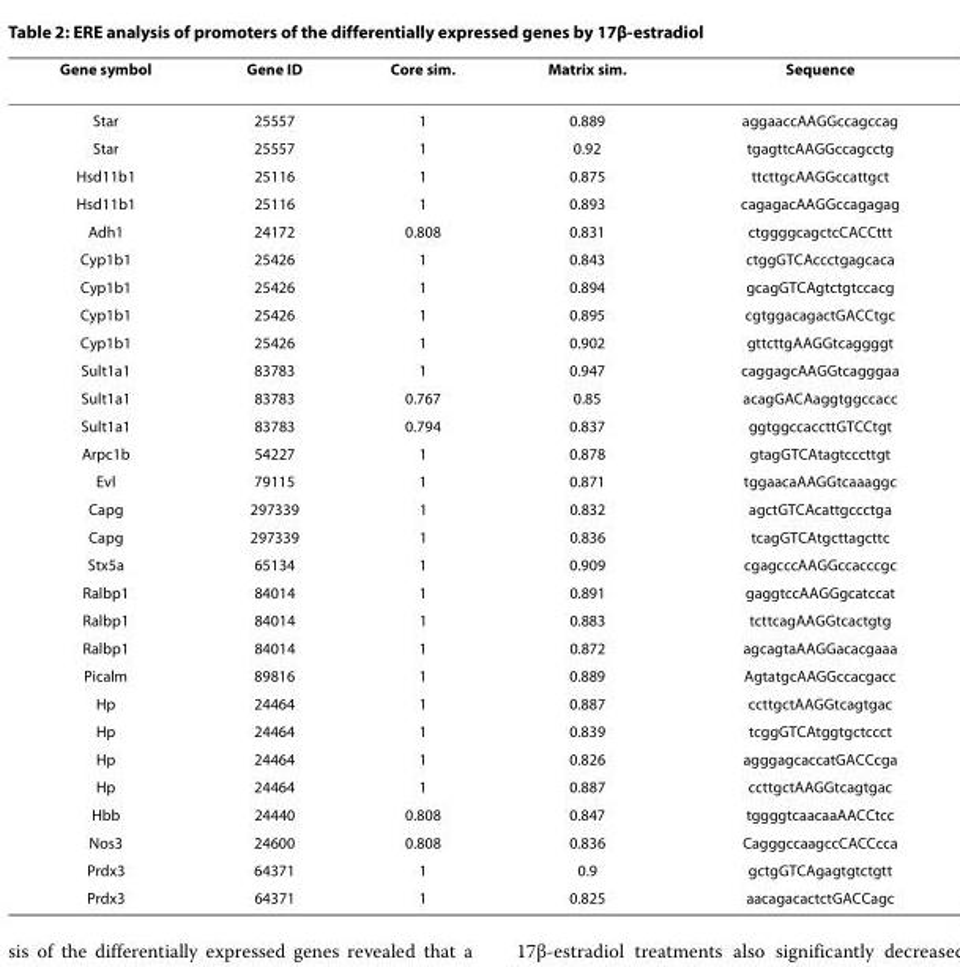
<table><thead><tr><td>Gene symbol</td><td>Gene ID</td><td>Core sim.</td><td>Matrix sim.</td><td>Sequence</td></tr></thead><tbody><tr><td>Star</td><td>25557</td><td>1</td><td>0.889</td><td>aggaaccAAGGccagccag</td></tr><tr><td>Star</td><td>25557</td><td>1</td><td>0.92</td><td>tgagttcAAGGccagcctg</td></tr><tr><td>Hsd11b1</td><td>25116</td><td>1</td><td>0.875</td><td>ttcttgcAAGGccattgct</td></tr><tr><td>Hsd11b1</td><td>25116</td><td>1</td><td>0.893</td><td>cagagacAAGGccagagag</td></tr><tr><td>Adh1</td><td>24172</td><td>0.808</td><td>0.831</td><td>ctggggcagctcCACCttt</td></tr><tr><td>Cyp1b1</td><td>25426</td><td>1</td><td>0.843</td><td>ctggGTCAccctgagcaca</td></tr><tr><td>Cyp1b1</td><td>25426</td><td>1</td><td>0.894</td><td>gcagGTCAgtctgtccacg</td></tr><tr><td>Cyp1b1</td><td>25426</td><td>1</td><td>0.895</td><td>cgtggacagactGACCtgc</td></tr><tr><td>Cyp1b1</td><td>25426</td><td>1</td><td>0.902</td><td>gttcttgAAGGtcaggggt</td></tr><tr><td>Sult1a1</td><td>83783</td><td>1</td><td>0.947</td><td>caggagcAAGGtcagggaa</td></tr><tr><td>Sult1a1</td><td>83783</td><td>0.767</td><td>0.85</td><td>acagGACAaggtggccacc</td></tr><tr><td>Sult1a1</td><td>83783</td><td>0.794</td><td>0.837</td><td>ggtggccaccttGTCCtgt</td></tr><tr><td>Arpc1b</td><td>54227</td><td>1</td><td>0.878</td><td>gtagGTCAtagtcccttgt</td></tr><tr><td>Evl</td><td>79115</td><td>1</td><td>0.871</td><td>tggaacaAAGGtcaaaggc</td></tr><tr><td>Capg</td><td>297339</td><td>1</td><td>0.832</td><td>agctGTCAcattgccctga</td></tr><tr><td>Capg</td><td>297339</td><td>1</td><td>0.836</td><td>tcagGTCAtgcttagcttc</td></tr><tr><td>Stx5a</td><td>65134</td><td>1</td><td>0.909</td><td>cgagcccAAGGccacccgc</td></tr><tr><td>Ralbp1</td><td>84014</td><td>1</td><td>0.891</td><td>gaggtccAAGGgcatccat</td></tr><tr><td>Ralbp1</td><td>84014</td><td>1</td><td>0.883</td><td>tcttcagAAGGtcactgtg</td></tr><tr><td>Ralbp1</td><td>84014</td><td>1</td><td>0.872</td><td>agcagtaAAGGacacgaaa</td></tr><tr><td>Picalm</td><td>89816</td><td>1</td><td>0.889</td><td>AgtatgcAAGGccacgacc</td></tr><tr><td>Hp</td><td>24464</td><td>1</td><td>0.887</td><td>ccttgctAAGGtcagtgac</td></tr><tr><td>Hp</td><td>24464</td><td>1</td><td>0.839</td><td>tcggGTCAtggtgctccct</td></tr><tr><td>Hp</td><td>24464</td><td>1</td><td>0.826</td><td>agggagcaccatGACCcga</td></tr><tr><td>Hp</td><td>24464</td><td>1</td><td>0.887</td><td>ccttgctAAGGtcagtgac</td></tr><tr><td>Hbb</td><td>24440</td><td>0.808</td><td>0.847</td><td>tggggtcaacaaAACCtcc</td></tr><tr><td>Nos3</td><td>24600</td><td>0.808</td><td>0.836</td><td>CagggccaagccCACCcca</td></tr><tr><td>Prdx3</td><td>64371</td><td>1</td><td>0.9</td><td>gctgGTCAgagtgtctgtt</td></tr><tr><td>Prdx3</td><td>64371</td><td>1</td><td>0.825</td><td>aacagacactctGACCagc</td></tr></tbody></table>